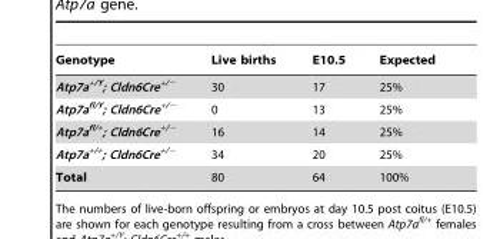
<table><thead><tr><td>Genotype</td><td>Live births</td><td>E10.5</td><td>Expected</td></tr></thead><tbody><tr><td>Atp7a<sup>+/Y</sup>; Cldn6Cre<sup>+/−</sup></td><td>30</td><td>17</td><td>25%</td></tr><tr><td>Atp7a<sup>fl/Y</sup>; Cldn6Cre<sup>+/−</sup></td><td>0</td><td>13</td><td>25%</td></tr><tr><td>Atp7a<sup>fl/+</sup>; Cldn6Cre<sup>+/−</sup></td><td>16</td><td>14</td><td>25%</td></tr><tr><td>Atp7a<sup>+/+</sup>; Cldn6Cre<sup>+/−</sup></td><td>34</td><td>20</td><td>25%</td></tr><tr><td>Total</td><td>80</td><td>64</td><td>100%</td></tr></tbody></table>